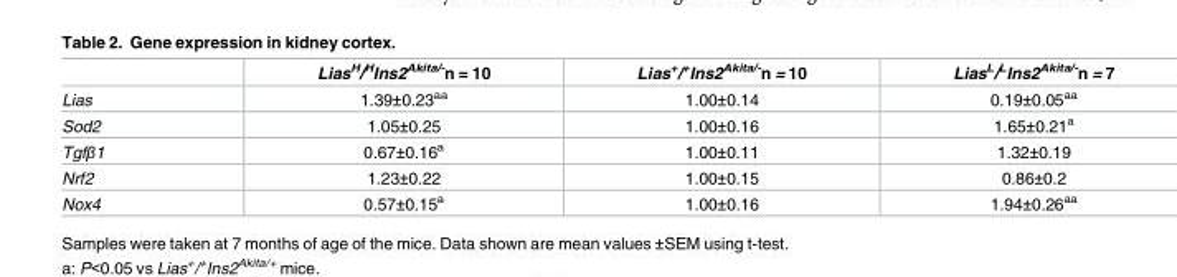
<table><thead><tr><td></td><td>Lias<sup>H</sup>/<sup>H</sup>Ins2<sup>Akita/-</sup>n = 10</td><td>Lias<sup>+</sup>/<sup>+</sup>Ins2<sup>Akita/-</sup>n = 10</td><td>Lias<sup>L</sup>/<sup>L</sup>Ins2<sup>Akita/-</sup>n = 7</td></tr></thead><tbody><tr><td>Lias</td><td>1.39±0.23<sup>aa</sup></td><td>1.00±0.14</td><td>0.19±0.05<sup>aa</sup></td></tr><tr><td>Sod2</td><td>1.05±0.25</td><td>1.00±0.16</td><td>1.65±0.21<sup>a</sup></td></tr><tr><td>Tgfβ1</td><td>0.67±0.16<sup>a</sup></td><td>1.00±0.11</td><td>1.32±0.19</td></tr><tr><td>Nrf2</td><td>1.23±0.22</td><td>1.00±0.15</td><td>0.86±0.2</td></tr><tr><td>Nox4</td><td>0.57±0.15<sup>a</sup></td><td>1.00±0.16</td><td>1.94±0.26<sup>aa</sup></td></tr></tbody></table>